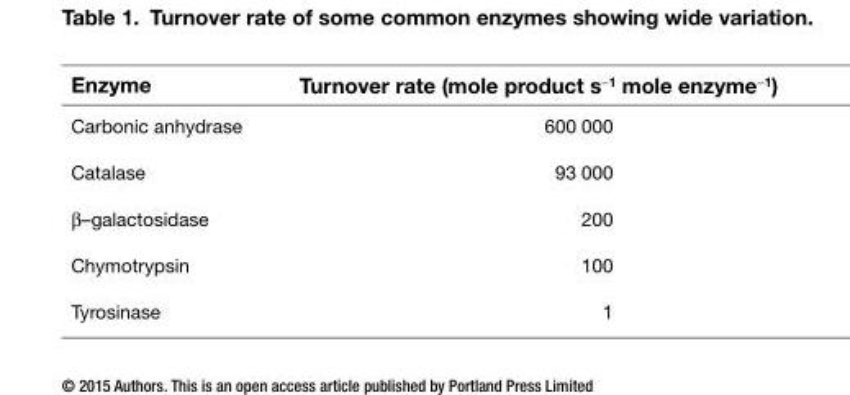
<table><thead><tr><td>Enzyme</td><td>Turnover rate (mole product s<sup>−1</sup> mole enzyme<sup>−1</sup>)</td></tr></thead><tbody><tr><td>Carbonic anhydrase</td><td>600 000</td></tr><tr><td>Catalase</td><td>93 000</td></tr><tr><td>β–galactosidase</td><td>200</td></tr><tr><td>Chymotrypsin</td><td>100</td></tr><tr><td>Tyrosinase</td><td>1</td></tr></tbody></table>